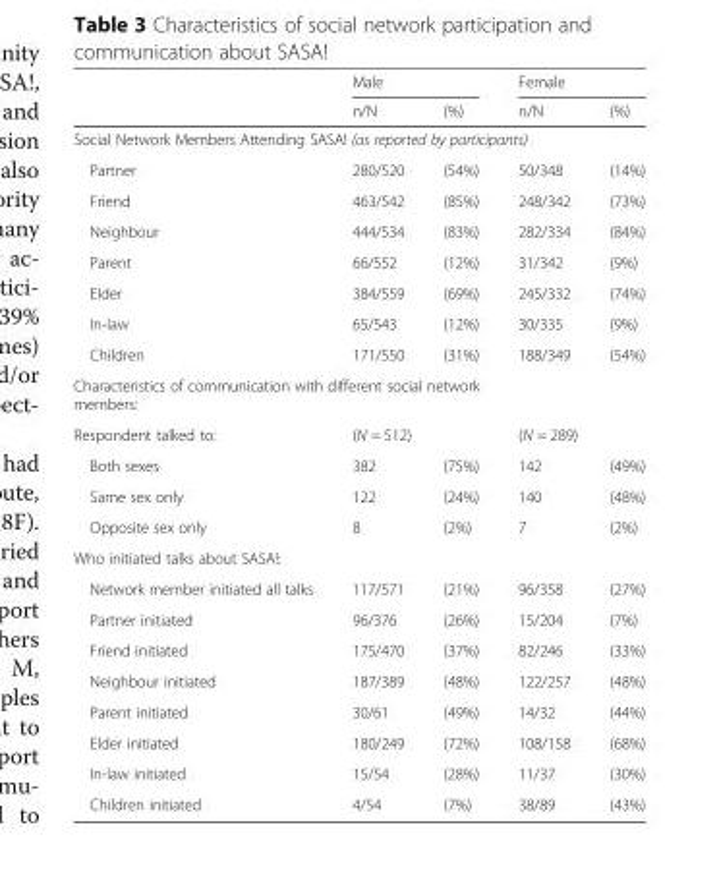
<table><thead><tr><td rowspan="2"></td><td colspan="2">Male</td><td colspan="2">Female</td></tr><tr><td>n/N</td><td>(%)</td><td>n/N</td><td>(%)</td></tr></thead><tbody><tr><td colspan="5">Social Network Members Attending SASA! (as reported by participants)</td></tr><tr><td>Partner</td><td>280/520</td><td>(54%)</td><td>50/348</td><td>(14%)</td></tr><tr><td>Friend</td><td>463/542</td><td>(85%)</td><td>248/342</td><td>(73%)</td></tr><tr><td>Neighbour</td><td>444/534</td><td>(83%)</td><td>282/334</td><td>(84%)</td></tr><tr><td>Parent</td><td>66/552</td><td>(12%)</td><td>31/342</td><td>(9%)</td></tr><tr><td>Elder</td><td>384/559</td><td>(69%)</td><td>245/332</td><td>(74%)</td></tr><tr><td>In-law</td><td>65/543</td><td>(12%)</td><td>30/335</td><td>(9%)</td></tr><tr><td>Children</td><td>171/550</td><td>(31%)</td><td>188/349</td><td>(54%)</td></tr><tr><td colspan="5">Characteristics of communication with different social network members:</td></tr><tr><td>Respondent talked to:</td><td colspan="2">(N = 512)</td><td colspan="2">(N = 289)</td></tr><tr><td>Both sexes</td><td>382</td><td>(75%)</td><td>142</td><td>(49%)</td></tr><tr><td>Same sex only</td><td>122</td><td>(24%)</td><td>140</td><td>(48%)</td></tr><tr><td>Opposite sex only</td><td>8</td><td>(2%)</td><td>7</td><td>(2%)</td></tr><tr><td colspan="5">Who initiated talks about SASA!:</td></tr><tr><td>Network member initiated all talks</td><td>117/571</td><td>(21%)</td><td>96/358</td><td>(27%)</td></tr><tr><td>Partner initiated</td><td>96/376</td><td>(26%)</td><td>15/204</td><td>(7%)</td></tr><tr><td>Friend initiated</td><td>175/470</td><td>(37%)</td><td>82/246</td><td>(33%)</td></tr><tr><td>Neighbour initiated</td><td>187/389</td><td>(48%)</td><td>122/257</td><td>(48%)</td></tr><tr><td>Parent initiated</td><td>30/61</td><td>(49%)</td><td>14/32</td><td>(44%)</td></tr><tr><td>Elder initiated</td><td>180/249</td><td>(72%)</td><td>108/158</td><td>(68%)</td></tr><tr><td>In-law initiated</td><td>15/54</td><td>(28%)</td><td>11/37</td><td>(30%)</td></tr><tr><td>Children initiated</td><td>4/54</td><td>(7%)</td><td>38/89</td><td>(43%)</td></tr></tbody></table>